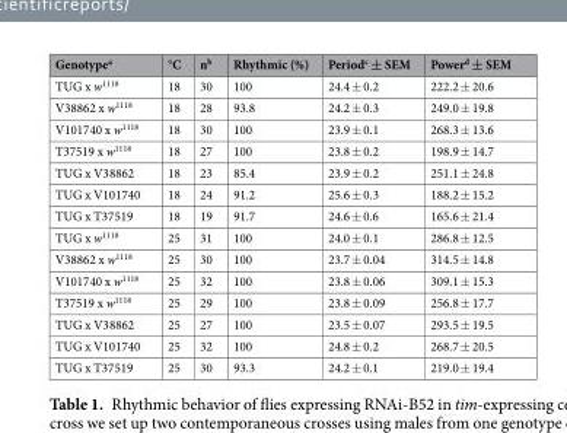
<table><thead><tr><td>Genotype<sup>a</sup></td><td>°C</td><td>n<sup>b</sup></td><td>Rhythmic (%)</td><td>Period<sup>c</sup> ± SEM</td><td>Power<sup>d</sup> ± SEM</td></tr></thead><tbody><tr><td>TUG x w<sup>1118</sup></td><td>18</td><td>30</td><td>100</td><td>24.4 ± 0.2</td><td>222.2 ± 20.6</td></tr><tr><td>V38862 x w<sup>1118</sup></td><td>18</td><td>28</td><td>93.8</td><td>24.2 ± 0.3</td><td>249.0 ± 19.8</td></tr><tr><td>V101740 x w<sup>1118</sup></td><td>18</td><td>30</td><td>100</td><td>23.9 ± 0.1</td><td>268.3 ± 13.6</td></tr><tr><td>T37519 x w<sup>1118</sup></td><td>18</td><td>27</td><td>100</td><td>23.8 ± 0.2</td><td>198.9 ± 14.7</td></tr><tr><td>TUG x V38862</td><td>18</td><td>23</td><td>85.4</td><td>23.9 ± 0.2</td><td>251.1 ± 24.8</td></tr><tr><td>TUG x V101740</td><td>18</td><td>24</td><td>91.2</td><td>25.6 ± 0.3</td><td>188.2 ± 15.2</td></tr><tr><td>TUG x T37519</td><td>18</td><td>19</td><td>91.7</td><td>24.6 ± 0.6</td><td>165.6 ± 21.4</td></tr><tr><td>TUG x w<sup>1118</sup></td><td>25</td><td>31</td><td>100</td><td>24.0 ± 0.1</td><td>286.8 ± 12.5</td></tr><tr><td>V38862 x w<sup>1118</sup></td><td>25</td><td>30</td><td>100</td><td>23.7 ± 0.04</td><td>314.5 ± 14.8</td></tr><tr><td>V101740 x w<sup>1118</sup></td><td>25</td><td>32</td><td>100</td><td>23.8 ± 0.06</td><td>309.1 ± 15.3</td></tr><tr><td>T37519 x w<sup>1118</sup></td><td>25</td><td>29</td><td>100</td><td>23.8 ± 0.09</td><td>256.8 ± 17.7</td></tr><tr><td>TUG x V38862</td><td>25</td><td>27</td><td>100</td><td>23.5 ± 0.07</td><td>293.5 ± 19.5</td></tr><tr><td>TUG x V101740</td><td>25</td><td>32</td><td>100</td><td>24.8 ± 0.2</td><td>268.7 ± 20.5</td></tr><tr><td>TUG x T37519</td><td>25</td><td>30</td><td>93.3</td><td>24.2 ± 0.1</td><td>219.0 ± 19.4</td></tr></tbody></table>